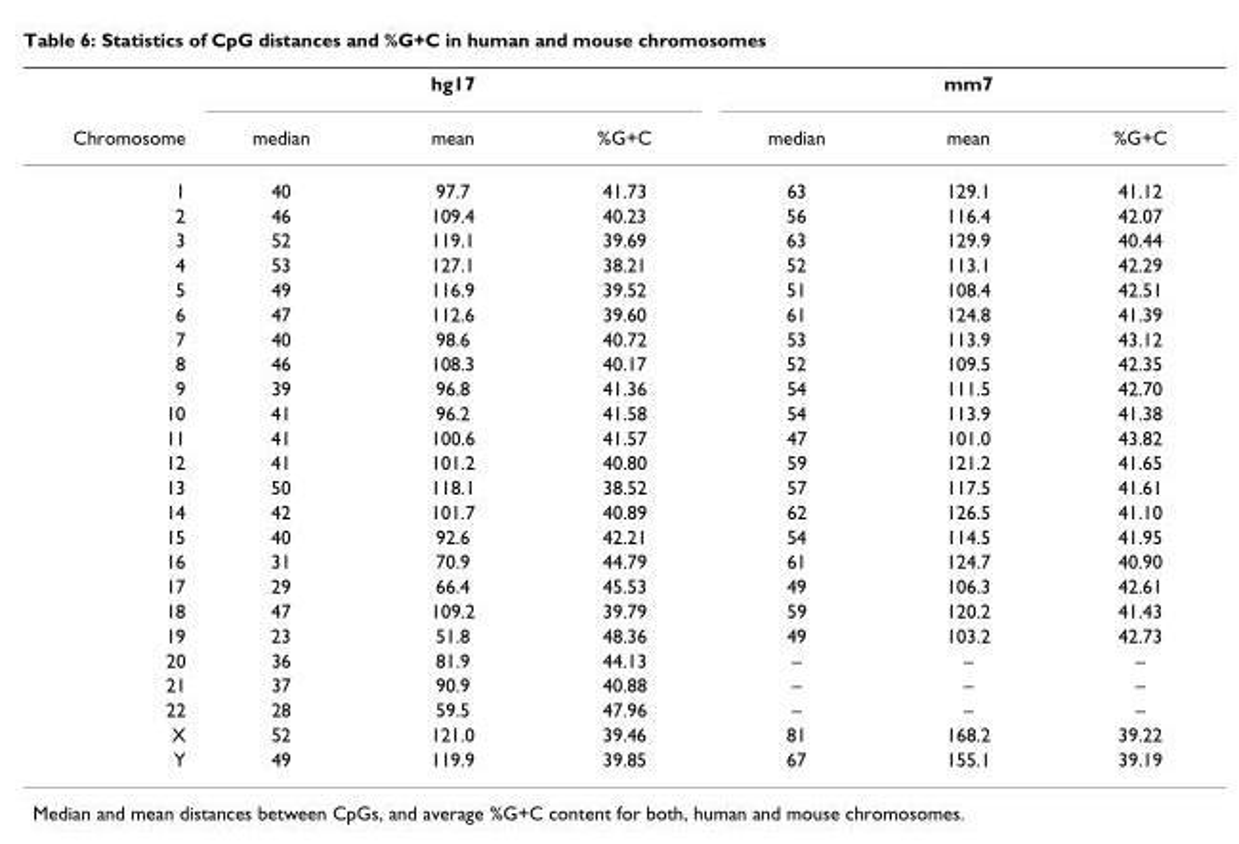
<table><thead><tr><td rowspan="2">Chromosome</td><td colspan="3">hg17</td><td colspan="3">mm7</td></tr><tr><td>median</td><td>mean</td><td>%G+C</td><td>median</td><td>mean</td><td>%G+C</td></tr></thead><tbody><tr><td>1</td><td>40</td><td>97.7</td><td>41.73</td><td>63</td><td>129.1</td><td>41.12</td></tr><tr><td>2</td><td>46</td><td>109.4</td><td>40.23</td><td>56</td><td>116.4</td><td>42.07</td></tr><tr><td>3</td><td>52</td><td>119.1</td><td>39.69</td><td>63</td><td>129.9</td><td>40.44</td></tr><tr><td>4</td><td>53</td><td>127.1</td><td>38.21</td><td>52</td><td>113.1</td><td>42.29</td></tr><tr><td>5</td><td>49</td><td>116.9</td><td>39.52</td><td>51</td><td>108.4</td><td>42.51</td></tr><tr><td>6</td><td>47</td><td>112.6</td><td>39.60</td><td>61</td><td>124.8</td><td>41.39</td></tr><tr><td>7</td><td>40</td><td>98.6</td><td>40.72</td><td>53</td><td>113.9</td><td>43.12</td></tr><tr><td>8</td><td>46</td><td>108.3</td><td>40.17</td><td>52</td><td>109.5</td><td>42.35</td></tr><tr><td>9</td><td>39</td><td>96.8</td><td>41.36</td><td>54</td><td>111.5</td><td>42.70</td></tr><tr><td>10</td><td>41</td><td>96.2</td><td>41.58</td><td>54</td><td>113.9</td><td>41.38</td></tr><tr><td>11</td><td>41</td><td>100.6</td><td>41.57</td><td>47</td><td>101.0</td><td>43.82</td></tr><tr><td>12</td><td>41</td><td>101.2</td><td>40.80</td><td>59</td><td>121.2</td><td>41.65</td></tr><tr><td>13</td><td>50</td><td>118.1</td><td>38.52</td><td>57</td><td>117.5</td><td>41.61</td></tr><tr><td>14</td><td>42</td><td>101.7</td><td>40.89</td><td>62</td><td>126.5</td><td>41.10</td></tr><tr><td>15</td><td>40</td><td>92.6</td><td>42.21</td><td>54</td><td>114.5</td><td>41.95</td></tr><tr><td>16</td><td>31</td><td>70.9</td><td>44.79</td><td>61</td><td>124.7</td><td>40.90</td></tr><tr><td>17</td><td>29</td><td>66.4</td><td>45.53</td><td>49</td><td>106.3</td><td>42.61</td></tr><tr><td>18</td><td>47</td><td>109.2</td><td>39.79</td><td>59</td><td>120.2</td><td>41.43</td></tr><tr><td>19</td><td>23</td><td>51.8</td><td>48.36</td><td>49</td><td>103.2</td><td>42.73</td></tr><tr><td>20</td><td>36</td><td>81.9</td><td>44.13</td><td>–</td><td>–</td><td>–</td></tr><tr><td>21</td><td>37</td><td>90.9</td><td>40.88</td><td>–</td><td>–</td><td>–</td></tr><tr><td>22</td><td>28</td><td>59.5</td><td>47.96</td><td>–</td><td>–</td><td>–</td></tr><tr><td>X</td><td>52</td><td>121.0</td><td>39.46</td><td>81</td><td>168.2</td><td>39.22</td></tr><tr><td>Y</td><td>49</td><td>119.9</td><td>39.85</td><td>67</td><td>155.1</td><td>39.19</td></tr></tbody></table>